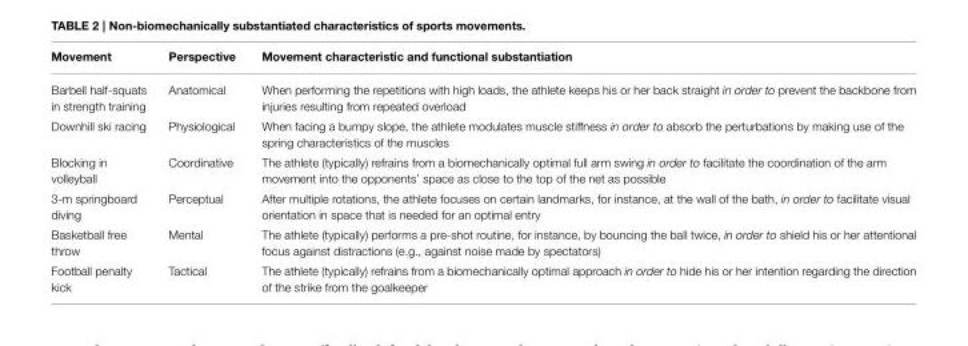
<table><thead><tr><td>Movement</td><td>Perspective</td><td>Movement characteristic and functional substantiation</td></tr></thead><tbody><tr><td>Barbell half-squats in strength training</td><td>Anatomical</td><td>When performing the repetitions with high loads, the athlete keeps his or her back straight in order to prevent the backbone from injuries resulting from repeated overload</td></tr><tr><td>Downhill ski racing</td><td>Physiological</td><td>When facing a bumpy slope, the athlete modulates muscle stiffness in order to absorb the perturbations by making use of the spring characteristics of the muscles</td></tr><tr><td>Blocking in volleyball</td><td>Coordinative</td><td>The athlete (typically) refrains from a biomechanically optimal full arm swing in order to facilitate the coordination of the arm movement into the opponents’ space as close to the top of the net as possible</td></tr><tr><td>3-m springboard diving</td><td>Perceptual</td><td>After multiple rotations, the athlete focuses on certain landmarks, for instance, at the wall of the bath, in order to facilitate visual orientation in space that is needed for an optimal entry</td></tr><tr><td>Basketball free throw</td><td>Mental</td><td>The athlete (typically) performs a pre-shot routine, for instance, by bouncing the ball twice, in order to shield his or her attentional focus against distractions (e.g., against noise made by spectators)</td></tr><tr><td>Football penalty kick</td><td>Tactical</td><td>The athlete (typically) refrains from a biomechanically optimal approach in order to hide his or her intention regarding the direction of the strike from the goalkeeper</td></tr></tbody></table>